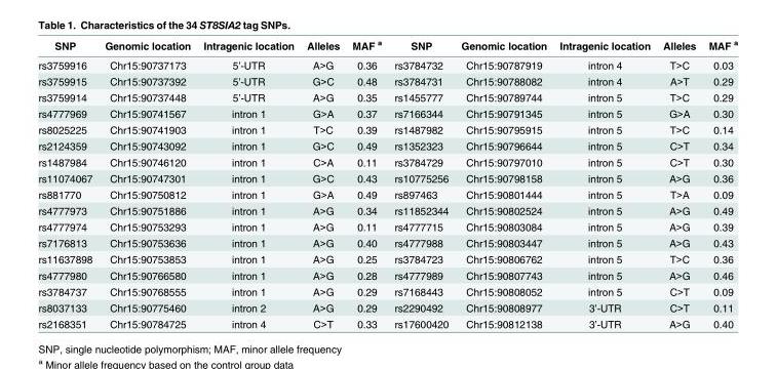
<table><thead><tr><td>SNP</td><td>Genomic location</td><td>Intragenic location</td><td>Alleles</td><td>MAF <sup>a</sup></td><td>SNP</td><td>Genomic location</td><td>Intragenic location</td><td>Alleles</td><td>MAF <sup>a</sup></td></tr></thead><tbody><tr><td>rs3759916</td><td>Chr15:90737173</td><td>5’-UTR</td><td>A&gt;G</td><td>0.36</td><td>rs3784732</td><td>Chr15:90787919</td><td>intron 4</td><td>T&gt;C</td><td>0.03</td></tr><tr><td>rs3759915</td><td>Chr15:90737392</td><td>5’-UTR</td><td>G&gt;C</td><td>0.48</td><td>rs3784731</td><td>Chr15:90788082</td><td>intron 4</td><td>A&gt;T</td><td>0.29</td></tr><tr><td>rs3759914</td><td>Chr15:90737448</td><td>5’-UTR</td><td>A&gt;G</td><td>0.35</td><td>rs1455777</td><td>Chr15:90789744</td><td>intron 5</td><td>T&gt;C</td><td>0.29</td></tr><tr><td>rs4777969</td><td>Chr15:90741567</td><td>intron 1</td><td>G&gt;A</td><td>0.37</td><td>rs7166344</td><td>Chr15:90791345</td><td>intron 5</td><td>G&gt;A</td><td>0.30</td></tr><tr><td>rs8025225</td><td>Chr15:90741903</td><td>intron 1</td><td>T&gt;C</td><td>0.39</td><td>rs1487982</td><td>Chr15:90795915</td><td>intron 5</td><td>T&gt;C</td><td>0.14</td></tr><tr><td>rs2124359</td><td>Chr15:90743092</td><td>intron 1</td><td>G&gt;C</td><td>0.49</td><td>rs1352323</td><td>Chr15:90796644</td><td>intron 5</td><td>C&gt;T</td><td>0.34</td></tr><tr><td>rs1487984</td><td>Chr15:90746120</td><td>intron 1</td><td>C&gt;A</td><td>0.11</td><td>rs3784729</td><td>Chr15:90797010</td><td>intron 5</td><td>C&gt;T</td><td>0.30</td></tr><tr><td>rs11074067</td><td>Chr15:90747301</td><td>intron 1</td><td>G&gt;C</td><td>0.43</td><td>rs10775256</td><td>Chr15:90798158</td><td>intron 5</td><td>A&gt;G</td><td>0.36</td></tr><tr><td>rs881770</td><td>Chr15:90750812</td><td>intron 1</td><td>G&gt;A</td><td>0.49</td><td>rs897463</td><td>Chr15:90801444</td><td>intron 5</td><td>T&gt;A</td><td>0.09</td></tr><tr><td>rs4777973</td><td>Chr15:90751886</td><td>intron 1</td><td>A&gt;G</td><td>0.34</td><td>rs11852344</td><td>Chr15:90802524</td><td>intron 5</td><td>A&gt;G</td><td>0.49</td></tr><tr><td>rs4777974</td><td>Chr15:90753293</td><td>intron 1</td><td>A&gt;G</td><td>0.11</td><td>rs4777715</td><td>Chr15:90803084</td><td>intron 5</td><td>A&gt;G</td><td>0.39</td></tr><tr><td>rs7176813</td><td>Chr15:90753636</td><td>intron 1</td><td>A&gt;G</td><td>0.40</td><td>rs4777988</td><td>Chr15:90803447</td><td>intron 5</td><td>A&gt;G</td><td>0.43</td></tr><tr><td>rs11637898</td><td>Chr15:90753853</td><td>intron 1</td><td>A&gt;G</td><td>0.25</td><td>rs3784723</td><td>Chr15:90806762</td><td>intron 5</td><td>T&gt;C</td><td>0.36</td></tr><tr><td>rs4777980</td><td>Chr15:90766580</td><td>intron 1</td><td>A&gt;G</td><td>0.28</td><td>rs4777989</td><td>Chr15:90807743</td><td>intron 5</td><td>A&gt;G</td><td>0.46</td></tr><tr><td>rs3784737</td><td>Chr15:90768555</td><td>intron 1</td><td>A&gt;G</td><td>0.29</td><td>rs7168443</td><td>Chr15:90808052</td><td>intron 5</td><td>C&gt;T</td><td>0.09</td></tr><tr><td>rs8037133</td><td>Chr15:90775460</td><td>intron 2</td><td>A&gt;G</td><td>0.29</td><td>rs2290492</td><td>Chr15:90808977</td><td>3’-UTR</td><td>C&gt;T</td><td>0.11</td></tr><tr><td>rs2168351</td><td>Chr15:90784725</td><td>intron 4</td><td>C&gt;T</td><td>0.33</td><td>rs17600420</td><td>Chr15:90812138</td><td>3’-UTR</td><td>A&gt;G</td><td>0.40</td></tr></tbody></table>